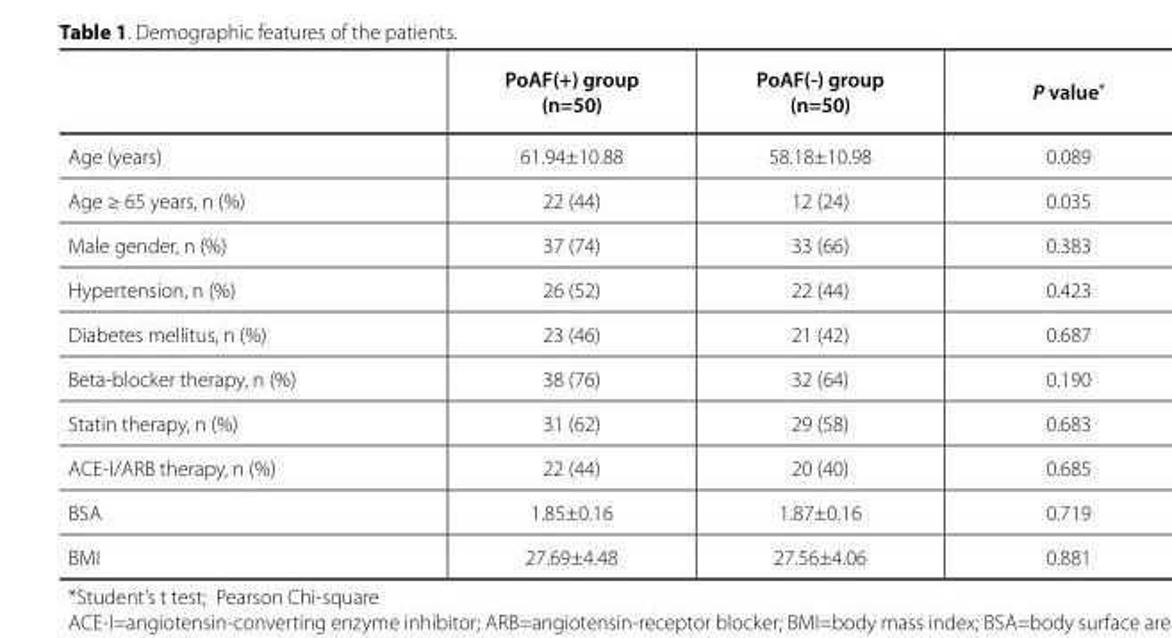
<table><thead><tr><td></td><td>PoAF(+) group (n=50)</td><td>PoAF(-) group (n=50)</td><td>P value*</td></tr></thead><tbody><tr><td>Age (years)</td><td>61.94±10.88</td><td>58.18±10.98</td><td>0.089</td></tr><tr><td>Age ≥ 65 years, n (%)</td><td>22 (44)</td><td>12 (24)</td><td>0.035</td></tr><tr><td>Male gender, n (%)</td><td>37 (74)</td><td>33 (66)</td><td>0.383</td></tr><tr><td>Hypertension, n (%)</td><td>26 (52)</td><td>22 (44)</td><td>0.423</td></tr><tr><td>Diabetes mellitus, n (%)</td><td>23 (46)</td><td>21 (42)</td><td>0.687</td></tr><tr><td>Beta-blocker therapy, n (%)</td><td>38 (76)</td><td>32 (64)</td><td>0.190</td></tr><tr><td>Statin therapy, n (%)</td><td>31 (62)</td><td>29 (58)</td><td>0.683</td></tr><tr><td>ACE-I/ARB therapy, n (%)</td><td>22 (44)</td><td>20 (40)</td><td>0.685</td></tr><tr><td>BSA</td><td>1.85±0.16</td><td>1.87±0.16</td><td>0.719</td></tr><tr><td>BMI</td><td>27.69±4.48</td><td>27.56±4.06</td><td>0.881</td></tr></tbody></table>